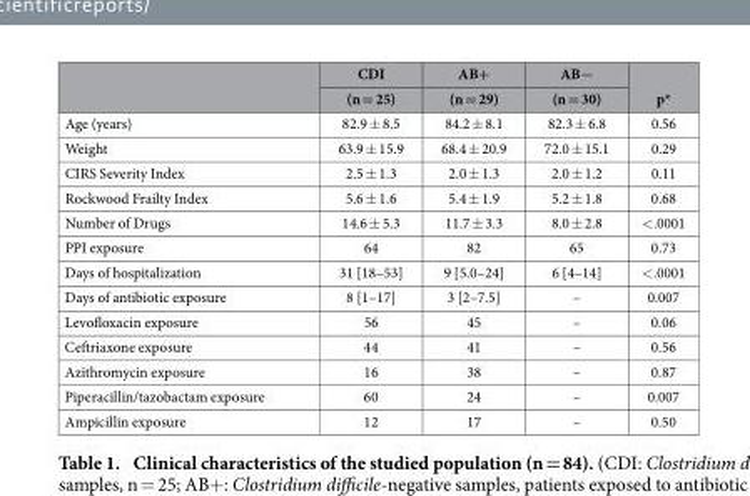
<table><thead><tr><td rowspan="2"></td><td rowspan="2">CDI (n = 25)</td><td rowspan="2">AB+ (n = 29)</td><td rowspan="2">AB− (n = 30)</td><td rowspan="2">p*</td></tr><tr></tr></thead><tbody><tr><td>Age (years)</td><td>82.9 ± 8.5</td><td>84.2 ± 8.1</td><td>82.3 ± 6.8</td><td>0.56</td></tr><tr><td>Weight</td><td>63.9 ± 15.9</td><td>68.4 ± 20.9</td><td>72.0 ± 15.1</td><td>0.29</td></tr><tr><td>CIRS Severity Index</td><td>2.5 ± 1.3</td><td>2.0 ± 1.3</td><td>2.0 ± 1.2</td><td>0.11</td></tr><tr><td>Rockwood Frailty Index</td><td>5.6 ± 1.6</td><td>5.4 ± 1.9</td><td>5.2 ± 1.8</td><td>0.68</td></tr><tr><td>Number of Drugs</td><td>14.6 ± 5.3</td><td>11.7 ± 3.3</td><td>8.0 ± 2.8</td><td>&lt; .0001</td></tr><tr><td>PPI exposure</td><td>64</td><td>82</td><td>65</td><td>0.73</td></tr><tr><td>Days of hospitalization</td><td>31 [18–53]</td><td>9 [5.0–24]</td><td>6 [4–14]</td><td>&lt; .0001</td></tr><tr><td>Days of antibiotic exposure</td><td>8 [1–17]</td><td>3 [2–7.5]</td><td>–</td><td>0.007</td></tr><tr><td>Levofloxacin exposure</td><td>56</td><td>45</td><td>–</td><td>0.06</td></tr><tr><td>Ceftriaxone exposure</td><td>44</td><td>41</td><td>–</td><td>0.56</td></tr><tr><td>Azithromycin exposure</td><td>16</td><td>38</td><td>–</td><td>0.87</td></tr><tr><td>Piperacillin/tazobactam exposure</td><td>60</td><td>24</td><td>–</td><td>0.007</td></tr><tr><td>Ampicillin exposure</td><td>12</td><td>17</td><td>–</td><td>0.50</td></tr></tbody></table>